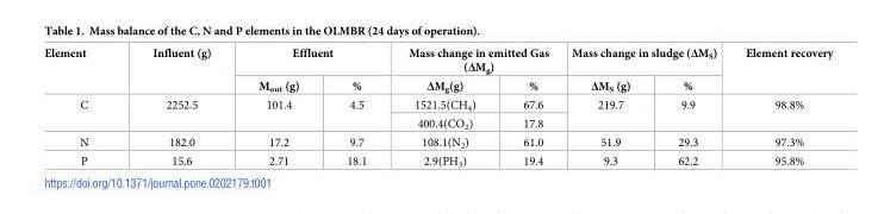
<table><thead><tr><td rowspan="2">Element</td><td rowspan="2">Influent (g)</td><td colspan="2">Effluent</td><td colspan="2">Mass change in emitted Gas (ΔM<sub>g</sub>)</td><td colspan="2">Mass change in sludge (ΔM<sub>S</sub>)</td><td rowspan="2">Element recovery</td></tr><tr><td>M<sub>out</sub> (g)</td><td>%</td><td>ΔM<sub>g</sub>(g)</td><td>%</td><td>ΔM<sub>S</sub> (g)</td><td>%</td></tr></thead><tbody><tr><td rowspan="2">C</td><td rowspan="2">2252.5</td><td rowspan="2">101.4</td><td rowspan="2">4.5</td><td>1521.5(CH<sub>4</sub>)</td><td>67.6</td><td rowspan="2">219.7</td><td rowspan="2">9.9</td><td rowspan="2">98.8%</td></tr><tr><td>400.4(CO<sub>2</sub>)</td><td>17.8</td></tr><tr><td>N</td><td>182.0</td><td>17.2</td><td>9.7</td><td>108.1(N<sub>2</sub>)</td><td>61.0</td><td>51.9</td><td>29.3</td><td>97.3%</td></tr><tr><td>P</td><td>15.6</td><td>2.71</td><td>18.1</td><td>2.9(PH<sub>3</sub>)</td><td>19.4</td><td>9.3</td><td>62.2</td><td>95.8%</td></tr></tbody></table>